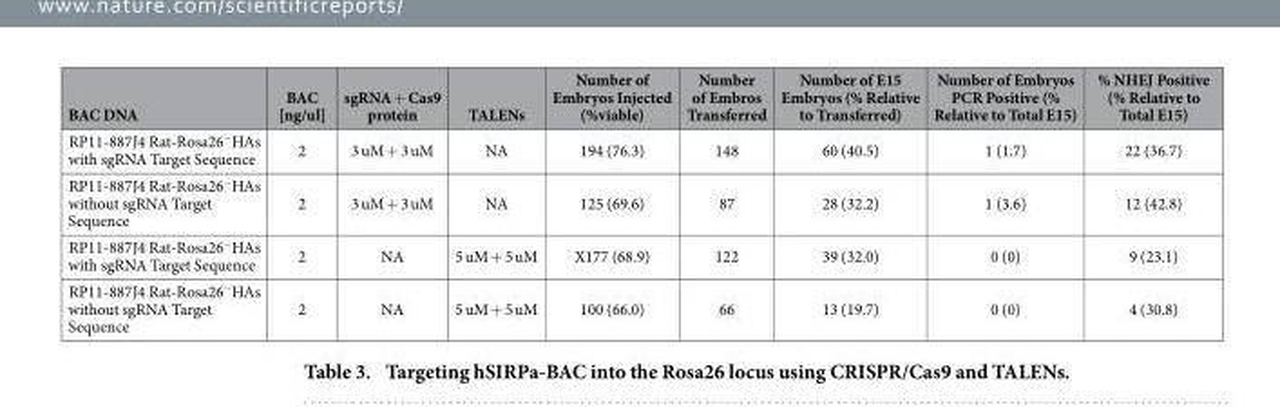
<table><thead><tr><td>BAC DNA</td><td>BAC [ng/ul]</td><td>sgRNA + Cas9 protein</td><td>TALENs</td><td>Number of Embryos Injected (%viable)</td><td>Number of Embros Transferred</td><td>Number of E15 Embryos (% Relative to Transferred)</td><td>Number of Embryos PCR Positive (% Relative to Total E15)</td><td>% NHEJ Positive (% Relative to Total E15)</td></tr></thead><tbody><tr><td>RP11-887J4 Rat-Rosa26<sup>−</sup>HAs with sgRNA Target Sequence</td><td>2</td><td>3 uM + 3 uM</td><td>NA</td><td>194 (76.3)</td><td>148</td><td>60 (40.5)</td><td>1 (1.7)</td><td>22 (36.7)</td></tr><tr><td>RP11-887J4 Rat-Rosa26<sup>−</sup>HAs without sgRNA Target Sequence</td><td>2</td><td>3 uM + 3 uM</td><td>NA</td><td>125 (69.6)</td><td>87</td><td>28 (32.2)</td><td>1 (3.6)</td><td>12 (42.8)</td></tr><tr><td>RP11-887J4 Rat-Rosa26<sup>−</sup>HAs with sgRNA Target Sequence</td><td>2</td><td>NA</td><td>5 uM + 5 uM</td><td>X177 (68.9)</td><td>122</td><td>39 (32.0)</td><td>0 (0)</td><td>9 (23.1)</td></tr><tr><td>RP11-887J4 Rat-Rosa26<sup>−</sup>HAs without sgRNA Target Sequence</td><td>2</td><td>NA</td><td>5 uM + 5 uM</td><td>100 (66.0)</td><td>66</td><td>13 (19.7)</td><td>0 (0)</td><td>4 (30.8)</td></tr></tbody></table>